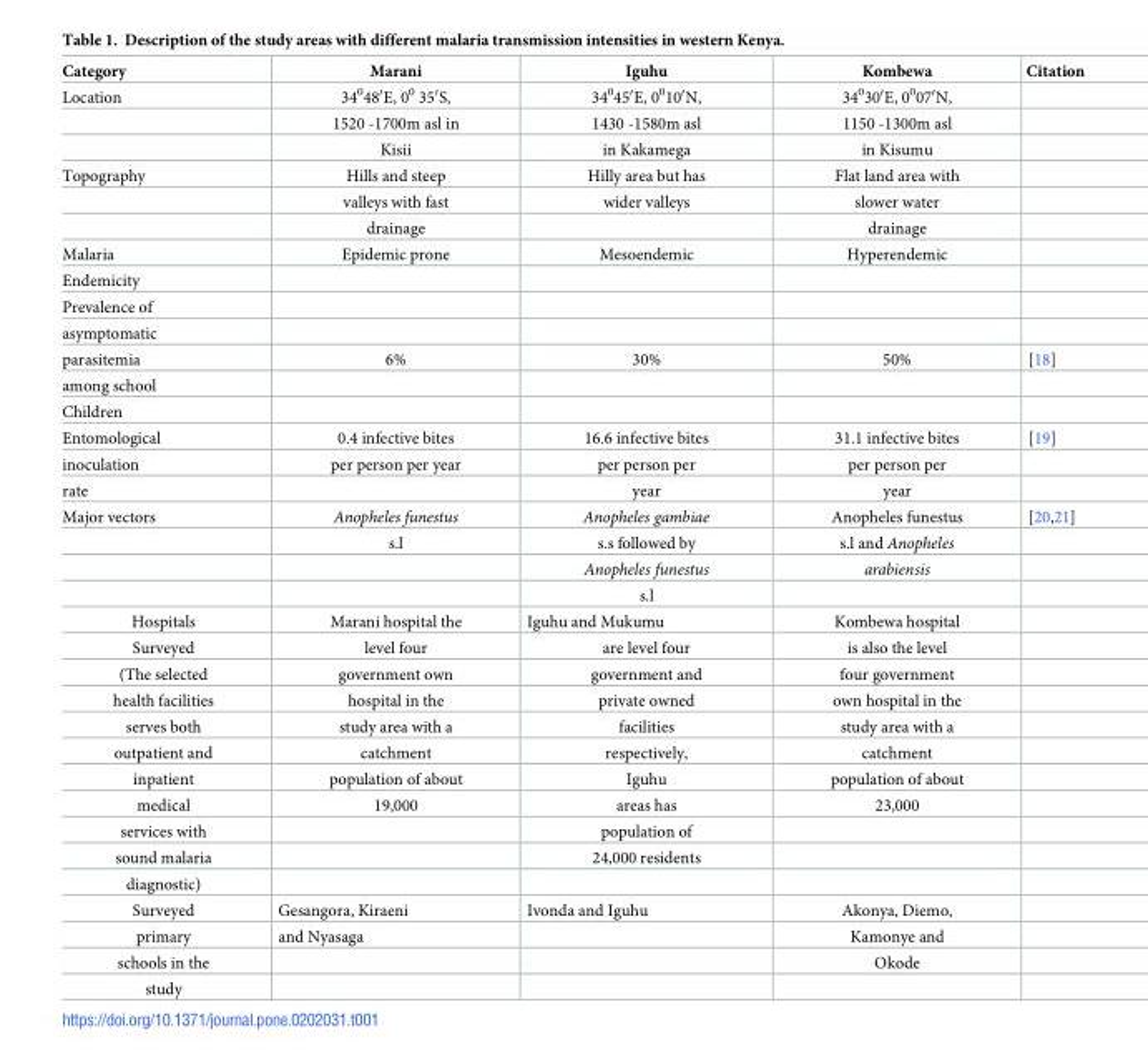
<table><thead><tr><td>Category</td><td>Marani</td><td>Iguhu</td><td>Kombewa</td><td>Citation</td></tr></thead><tbody><tr><td rowspan="3">Location</td><td>34<sup>0</sup>48ʹE, 0<sup>0</sup> 35ʹS,</td><td>34<sup>0</sup>45ʹE, 0<sup>0</sup>10ʹN,</td><td>34<sup>0</sup>30ʹE, 0<sup>0</sup>07ʹN,</td><td></td></tr><tr><td>1520 -1700m asl in</td><td>1430 -1580m asl</td><td>1150 -1300m asl</td><td></td></tr><tr><td>Kisii</td><td>in Kakamega</td><td>in Kisumu</td><td></td></tr><tr><td rowspan="3">Topography</td><td>Hills and steep</td><td>Hilly area but has</td><td>Flat land area with</td><td></td></tr><tr><td>valleys with fast</td><td>wider valleys</td><td>slower water</td><td></td></tr><tr><td>drainage</td><td></td><td>drainage</td><td></td></tr><tr><td>Malaria</td><td>Epidemic prone</td><td>Mesoendemic</td><td>Hyperendemic</td><td></td></tr><tr><td colspan="5">Endemicity</td></tr><tr><td colspan="5">Prevalence of</td></tr><tr><td colspan="5">asymptomatic</td></tr><tr><td>parasitemia</td><td>6%</td><td>30%</td><td>50%</td><td>[18]</td></tr><tr><td colspan="5">among school</td></tr><tr><td colspan="5">Children</td></tr><tr><td>Entomological</td><td>0.4 infective bites</td><td>16.6 infective bites</td><td>31.1 infective bites</td><td>[19]</td></tr><tr><td>inoculation</td><td>per person per year</td><td>per person per</td><td>per person per</td><td></td></tr><tr><td>rate</td><td></td><td>year</td><td>year</td><td></td></tr><tr><td rowspan="4">Major vectors</td><td>Anopheles funestus</td><td>Anopheles gambiae</td><td>Anopheles funestus</td><td>[20,21]</td></tr><tr><td>s.l</td><td>s.s followed by</td><td>s.l and Anopheles</td><td></td></tr><tr><td></td><td>Anopheles funestus</td><td>arabiensis</td><td></td></tr><tr><td></td><td>s.l</td><td></td><td></td></tr><tr><td>Hospitals</td><td>Marani hospital the</td><td>Iguhu and Mukumu</td><td>Kombewa hospital</td><td></td></tr><tr><td>Surveyed</td><td>level four</td><td>are level four</td><td>is also the level</td><td></td></tr><tr><td>(The selected</td><td>government own</td><td>government and</td><td>four government</td><td></td></tr><tr><td>health facilities</td><td>hospital in the</td><td>private owned</td><td>own hospital in the</td><td></td></tr><tr><td>serves both</td><td>study area with a</td><td>facilities</td><td>study area with a</td><td></td></tr><tr><td>outpatient and</td><td>catchment</td><td>respectively,</td><td>catchment</td><td></td></tr><tr><td>inpatient</td><td>population of about</td><td>Iguhu</td><td>population of about</td><td></td></tr><tr><td>medical</td><td>19,000</td><td>areas has</td><td>23,000</td><td></td></tr><tr><td>services with</td><td></td><td>population of</td><td></td><td></td></tr><tr><td>sound malaria</td><td></td><td>24,000 residents</td><td></td><td></td></tr><tr><td colspan="5">diagnostic)</td></tr><tr><td>Surveyed</td><td>Gesangora, Kiraeni</td><td>Ivonda and Iguhu</td><td>Akonya, Diemo,</td><td></td></tr><tr><td>primary</td><td>and Nyasaga</td><td></td><td>Kamonye and</td><td></td></tr><tr><td>schools in the</td><td></td><td></td><td>Okode</td><td></td></tr><tr><td>study</td><td></td><td></td><td></td><td></td></tr></tbody></table>